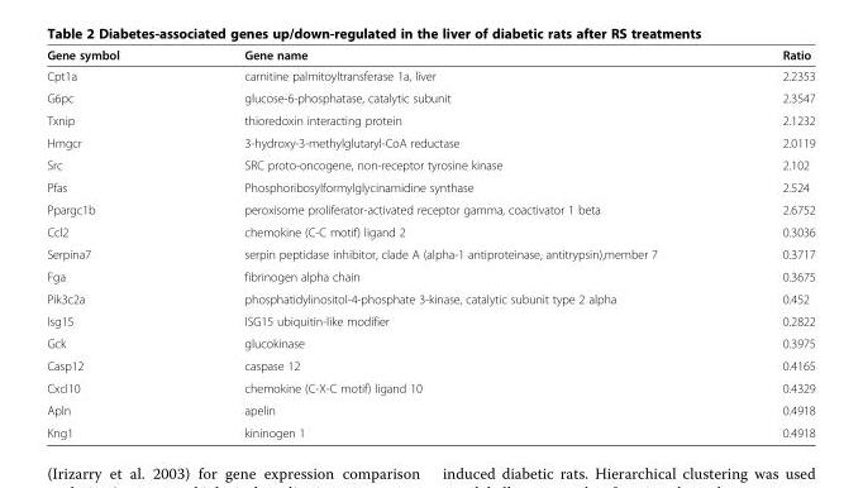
<table><thead><tr><td>Gene symbol</td><td>Gene name</td><td>Ratio</td></tr></thead><tbody><tr><td>Cpt1a</td><td>carnitine palmitoyltransferase 1a, liver</td><td>2.2353</td></tr><tr><td>G6pc</td><td>glucose-6-phosphatase, catalytic subunit</td><td>2.3547</td></tr><tr><td>Txnip</td><td>thioredoxin interacting protein</td><td>2.1232</td></tr><tr><td>Hmgcr</td><td>3-hydroxy-3-methylglutaryl-CoA reductase</td><td>2.0119</td></tr><tr><td>Src</td><td>SRC proto-oncogene, non-receptor tyrosine kinase</td><td>2.102</td></tr><tr><td>Pfas</td><td>Phosphoribosylformylglycinamidine synthase</td><td>2.524</td></tr><tr><td>Ppargc1b</td><td>peroxisome proliferator-activated receptor gamma, coactivator 1 beta</td><td>2.6752</td></tr><tr><td>Ccl2</td><td>chemokine (C-C motif) ligand 2</td><td>0.3036</td></tr><tr><td>Serpina7</td><td>serpin peptidase inhibitor, clade A (alpha-1 antiproteinase, antitrypsin),member 7</td><td>0.3717</td></tr><tr><td>Fga</td><td>fibrinogen alpha chain</td><td>0.3675</td></tr><tr><td>Pik3c2a</td><td>phosphatidylinositol-4-phosphate 3-kinase, catalytic subunit type 2 alpha</td><td>0.452</td></tr><tr><td>Isg15</td><td>ISG15 ubiquitin-like modifier</td><td>0.2822</td></tr><tr><td>Gck</td><td>glucokinase</td><td>0.3975</td></tr><tr><td>Casp12</td><td>caspase 12</td><td>0.4165</td></tr><tr><td>Cxcl10</td><td>chemokine (C-X-C motif) ligand 10</td><td>0.4329</td></tr><tr><td>Apln</td><td>apelin</td><td>0.4918</td></tr><tr><td>Kng1</td><td>kininogen 1</td><td>0.4918</td></tr></tbody></table>